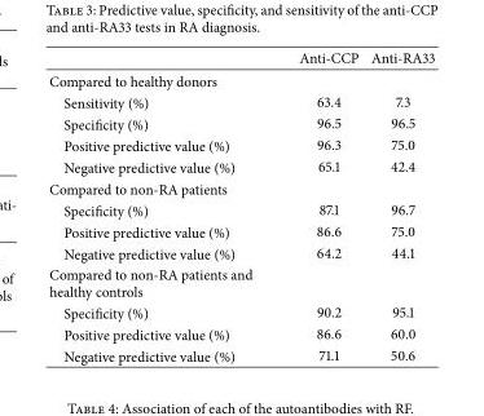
<table><thead><tr><td></td><td>Anti-CCP</td><td>Anti-RA33</td></tr></thead><tbody><tr><td colspan="3">Compared to healthy donors</td></tr><tr><td>Sensitivity (%)</td><td>63.4</td><td>7.3</td></tr><tr><td>Specificity (%)</td><td>96.5</td><td>96.5</td></tr><tr><td>Positive predictive value (%)</td><td>96.3</td><td>75.0</td></tr><tr><td>Negative predictive value (%)</td><td>65.1</td><td>42.4</td></tr><tr><td colspan="3">Compared to non-RA patients</td></tr><tr><td>Specificity (%)</td><td>87.1</td><td>96.7</td></tr><tr><td>Positive predictive value (%)</td><td>86.6</td><td>75.0</td></tr><tr><td>Negative predictive value (%)</td><td>64.2</td><td>44.1</td></tr><tr><td colspan="3">Compared to non-RA patients and healthy controls</td></tr><tr><td>Specificity (%)</td><td>90.2</td><td>95.1</td></tr><tr><td>Positive predictive value (%)</td><td>86.6</td><td>60.0</td></tr><tr><td>Negative predictive value (%)</td><td>71.1</td><td>50.6</td></tr></tbody></table>